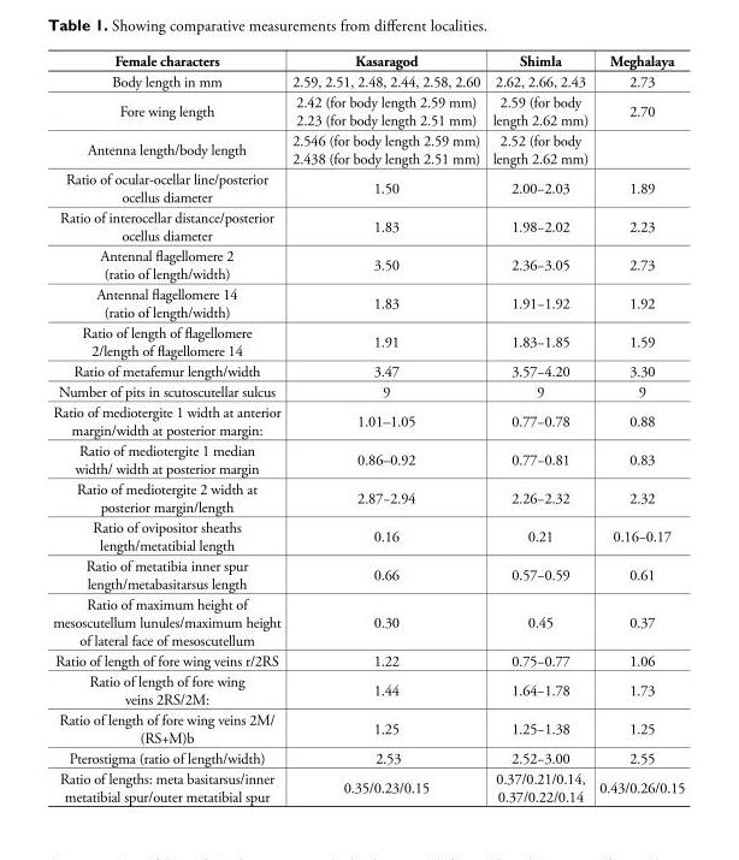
<table><thead><tr><td>Female characters</td><td>Kasaragod</td><td>Shimla</td><td>Meghalaya</td></tr></thead><tbody><tr><td>Body length in mm</td><td>2.59, 2.51, 2.48, 2.44, 2.58, 2.60</td><td>2.62, 2.66, 2.43</td><td>2.73</td></tr><tr><td>Fore wing length</td><td>2.42 (for body length 2.59 mm) 2.23 (for body length 2.51 mm)</td><td>2.59 (for body length 2.62 mm)</td><td>2.70</td></tr><tr><td>Antenna length/body length</td><td>2.546 (for body length 2.59 mm) 2.438 (for body length 2.51 mm)</td><td>2.52 (for body length 2.62 mm)</td><td></td></tr><tr><td>Ratio of ocular-ocellar line/posterior ocellus diameter</td><td>1.50</td><td>2.00−2.03</td><td>1.89</td></tr><tr><td>Ratio of interocellar distance/posterior ocellus diameter</td><td>1.83</td><td>1.98−2.02</td><td>2.23</td></tr><tr><td>Antennal flagellomere 2 (ratio of length/width)</td><td>3.50</td><td>2.36−3.05</td><td>2.73</td></tr><tr><td>Antennal flagellomere 14 (ratio of length/width)</td><td>1.83</td><td>1.91−1.92</td><td>1.92</td></tr><tr><td>Ratio of length of flagellomere 2/length of flagellomere 14</td><td>1.91</td><td>1.83−1.85</td><td>1.59</td></tr><tr><td>Ratio of metafemur length/width</td><td>3.47</td><td>3.57−4.20</td><td>3.30</td></tr><tr><td>Number of pits in scutoscutellar sulcus</td><td>9</td><td>9</td><td>9</td></tr><tr><td>Ratio of mediotergite 1 width at anterior margin/width at posterior margin:</td><td>1.01–1.05</td><td>0.77−0.78</td><td>0.88</td></tr><tr><td>Ratio of mediotergite 1 median width/ width at posterior margin</td><td>0.86–0.92</td><td>0.77−0.81</td><td>0.83</td></tr><tr><td>Ratio of mediotergite 2 width at posterior margin/length</td><td>2.87−2.94</td><td>2.26−2.32</td><td>2.32</td></tr><tr><td>Ratio of ovipositor sheaths length/metatibial length</td><td>0.16</td><td>0.21</td><td>0.16−0.17</td></tr><tr><td>Ratio of metatibia inner spur length/metabasitarsus length</td><td>0.66</td><td>0.57−0.59</td><td>0.61</td></tr><tr><td>Ratio of maximum height of mesoscutellum lunules/maximum height of lateral face of mesoscutellum</td><td>0.30</td><td>0.45</td><td>0.37</td></tr><tr><td>Ratio of length of fore wing veins r/2RS</td><td>1.22</td><td>0.75−0.77</td><td>1.06</td></tr><tr><td>Ratio of length of fore wing veins 2RS/2M:</td><td>1.44</td><td>1.64−1.78</td><td>1.73</td></tr><tr><td>Ratio of length of fore wing veins 2M/ (RS+M)b</td><td>1.25</td><td>1.25−1.38</td><td>1.25</td></tr><tr><td>Pterostigma (ratio of length/width)</td><td>2.53</td><td>2.52−3.00</td><td>2.55</td></tr><tr><td>Ratio of lengths: meta basitarsus/inner metatibial spur/outer metatibial spur</td><td>0.35/0.23/0.15</td><td>0.37/0.21/0.14, 0.37/0.22/0.14</td><td>0.43/0.26/0.15</td></tr></tbody></table>